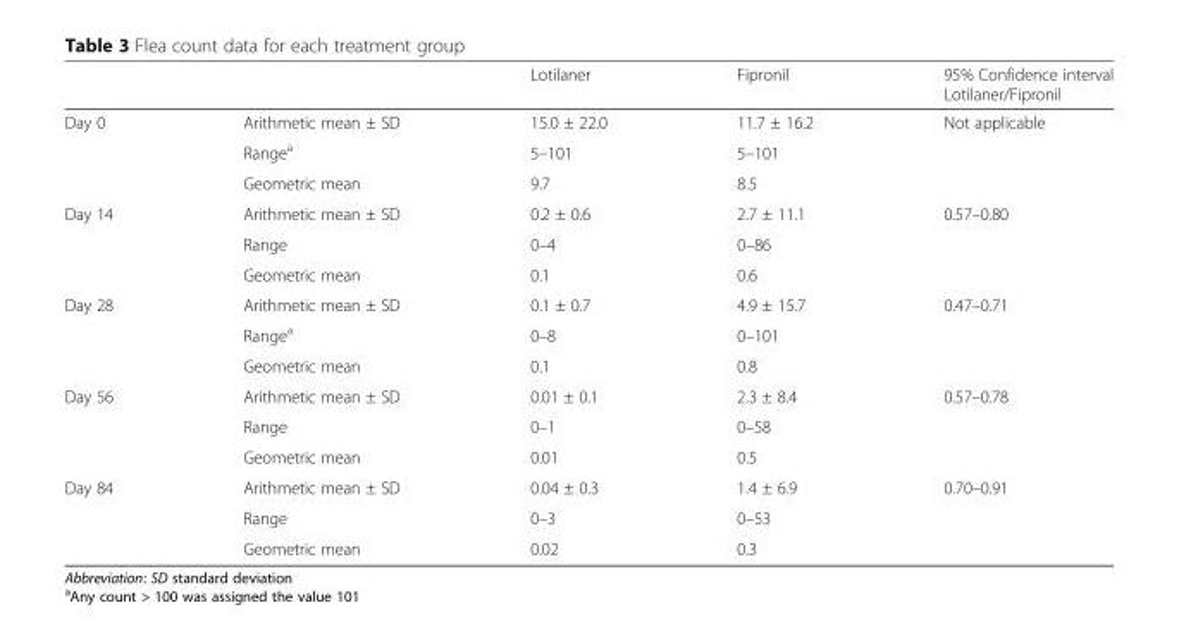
<table><thead><tr><td></td><td></td><td>Lotilaner</td><td>Fipronil</td><td>95% Confidence interval Lotilaner/Fipronil</td></tr></thead><tbody><tr><td rowspan="3">Day 0</td><td>Arithmetic mean ± SD</td><td>15.0 ± 22.0</td><td>11.7 ± 16.2</td><td>Not applicable</td></tr><tr><td>Range<sup>a</sup></td><td>5–101</td><td>5–101</td><td></td></tr><tr><td>Geometric mean</td><td>9.7</td><td>8.5</td><td></td></tr><tr><td rowspan="3">Day 14</td><td>Arithmetic mean ± SD</td><td>0.2 ± 0.6</td><td>2.7 ± 11.1</td><td>0.57–0.80</td></tr><tr><td>Range</td><td>0–4</td><td>0–86</td><td></td></tr><tr><td>Geometric mean</td><td>0.1</td><td>0.6</td><td></td></tr><tr><td rowspan="3">Day 28</td><td>Arithmetic mean ± SD</td><td>0.1 ± 0.7</td><td>4.9 ± 15.7</td><td>0.47–0.71</td></tr><tr><td>Range<sup>a</sup></td><td>0–8</td><td>0–101</td><td></td></tr><tr><td>Geometric mean</td><td>0.1</td><td>0.8</td><td></td></tr><tr><td rowspan="3">Day 56</td><td>Arithmetic mean ± SD</td><td>0.01 ± 0.1</td><td>2.3 ± 8.4</td><td>0.57–0.78</td></tr><tr><td>Range</td><td>0–1</td><td>0–58</td><td></td></tr><tr><td>Geometric mean</td><td>0.01</td><td>0.5</td><td></td></tr><tr><td rowspan="3">Day 84</td><td>Arithmetic mean ± SD</td><td>0.04 ± 0.3</td><td>1.4 ± 6.9</td><td>0.70–0.91</td></tr><tr><td>Range</td><td>0–3</td><td>0–53</td><td></td></tr><tr><td>Geometric mean</td><td>0.02</td><td>0.3</td><td></td></tr></tbody></table>